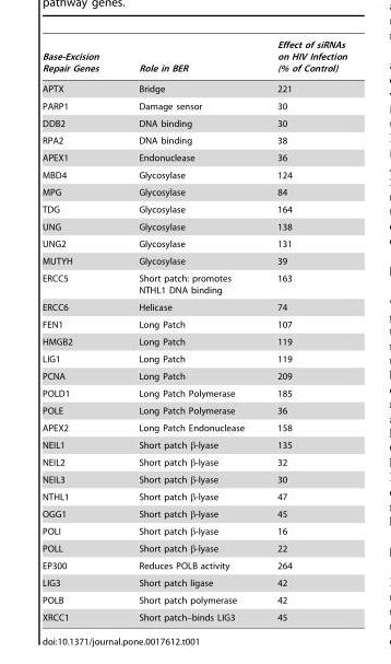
<table><thead><tr><td>Base-Excision Repair Genes</td><td>Role in BER</td><td>Effect of siRNAs on HIV Infection (% of Control)</td></tr></thead><tbody><tr><td>APTX</td><td>Bridge</td><td>221</td></tr><tr><td>PARP1</td><td>Damage sensor</td><td>30</td></tr><tr><td>DDB2</td><td>DNA binding</td><td>30</td></tr><tr><td>RPA2</td><td>DNA binding</td><td>38</td></tr><tr><td>APEX1</td><td>Endonuclease</td><td>36</td></tr><tr><td>MBD4</td><td>Glycosylase</td><td>124</td></tr><tr><td>MPG</td><td>Glycosylase</td><td>84</td></tr><tr><td>TDG</td><td>Glycosylase</td><td>164</td></tr><tr><td>UNG</td><td>Glycosylase</td><td>138</td></tr><tr><td>UNG2</td><td>Glycosylase</td><td>131</td></tr><tr><td>MUTYH</td><td>Glycosylase</td><td>39</td></tr><tr><td>ERCC5</td><td>Short patch: promotes NTHL1 DNA binding</td><td>163</td></tr><tr><td>ERCC6</td><td>Helicase</td><td>74</td></tr><tr><td>FEN1</td><td>Long Patch</td><td>107</td></tr><tr><td>HMGB2</td><td>Long Patch</td><td>119</td></tr><tr><td>LIG1</td><td>Long Patch</td><td>119</td></tr><tr><td>PCNA</td><td>Long Patch</td><td>209</td></tr><tr><td>POLD1</td><td>Long Patch Polymerase</td><td>185</td></tr><tr><td>POLE</td><td>Long Patch Polymerase</td><td>36</td></tr><tr><td>APEX2</td><td>Long Patch Endonuclease</td><td>158</td></tr><tr><td>NEIL1</td><td>Short patch β-lyase</td><td>135</td></tr><tr><td>NEIL2</td><td>Short patch β-lyase</td><td>32</td></tr><tr><td>NEIL3</td><td>Short patch β-lyase</td><td>30</td></tr><tr><td>NTHL1</td><td>Short patch β-lyase</td><td>47</td></tr><tr><td>OGG1</td><td>Short patch β-lyase</td><td>45</td></tr><tr><td>POLI</td><td>Short patch β-lyase</td><td>16</td></tr><tr><td>POLL</td><td>Short patch β-lyase</td><td>22</td></tr><tr><td>EP300</td><td>Reduces POLB activity</td><td>264</td></tr><tr><td>LIG3</td><td>Short patch ligase</td><td>42</td></tr><tr><td>POLB</td><td>Short patch polymerase</td><td>42</td></tr><tr><td>XRCC1</td><td>Short patch–binds LIG3</td><td>45</td></tr></tbody></table>